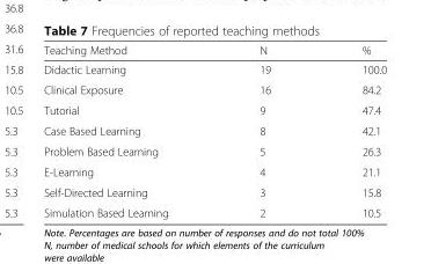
<table><thead><tr><td>Teaching Method</td><td>N</td><td>%</td></tr></thead><tbody><tr><td>Didactic Learning</td><td>19</td><td>100.0</td></tr><tr><td>Clinical Exposure</td><td>16</td><td>84.2</td></tr><tr><td>Tutorial</td><td>9</td><td>47.4</td></tr><tr><td>Case Based Learning</td><td>8</td><td>42.1</td></tr><tr><td>Problem Based Learning</td><td>5</td><td>26.3</td></tr><tr><td>E-Learning</td><td>4</td><td>21.1</td></tr><tr><td>Self-Directed Learning</td><td>3</td><td>15.8</td></tr><tr><td>Simulation Based Learning</td><td>2</td><td>10.5</td></tr></tbody></table>